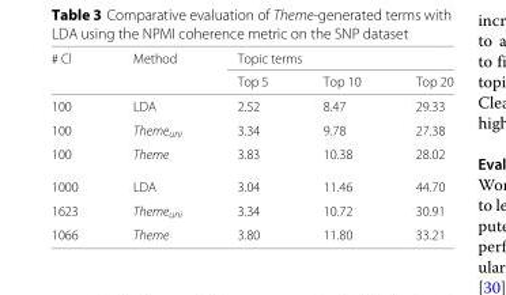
<table><thead><tr><td rowspan="2"># Cl</td><td rowspan="2">Method</td><td colspan="3">Topic terms</td></tr><tr><td>Top 5</td><td>Top 10</td><td>Top 20</td></tr></thead><tbody><tr><td>100</td><td>LDA</td><td>2.52</td><td>8.47</td><td>29.33</td></tr><tr><td>100</td><td>Theme<sub>uni</sub></td><td>3.34</td><td>9.78</td><td>27.38</td></tr><tr><td>100</td><td>Theme</td><td>3.83</td><td>10.38</td><td>28.02</td></tr><tr><td>1000</td><td>LDA</td><td>3.04</td><td>11.46</td><td>44.70</td></tr><tr><td>1623</td><td>Theme<sub>uni</sub></td><td>3.34</td><td>10.72</td><td>30.91</td></tr><tr><td>1066</td><td>Theme</td><td>3.80</td><td>11.80</td><td>33.21</td></tr></tbody></table>